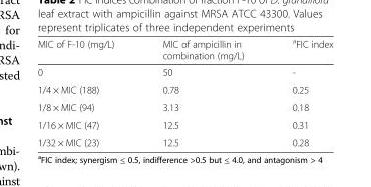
<table><thead><tr><td>MIC of F-10 (mg/L)</td><td>MIC of ampicillin in combination (mg/L)</td><td><sup>a</sup>FIC index</td></tr></thead><tbody><tr><td>0</td><td>50</td><td>-</td></tr><tr><td>1/4 × MIC (188)</td><td>0.78</td><td>0.25</td></tr><tr><td>1/8 × MIC (94)</td><td>3.13</td><td>0.18</td></tr><tr><td>1/16 × MIC (47)</td><td>12.5</td><td>0.31</td></tr><tr><td>1/32 × MIC (23)</td><td>12.5</td><td>0.28</td></tr></tbody></table>